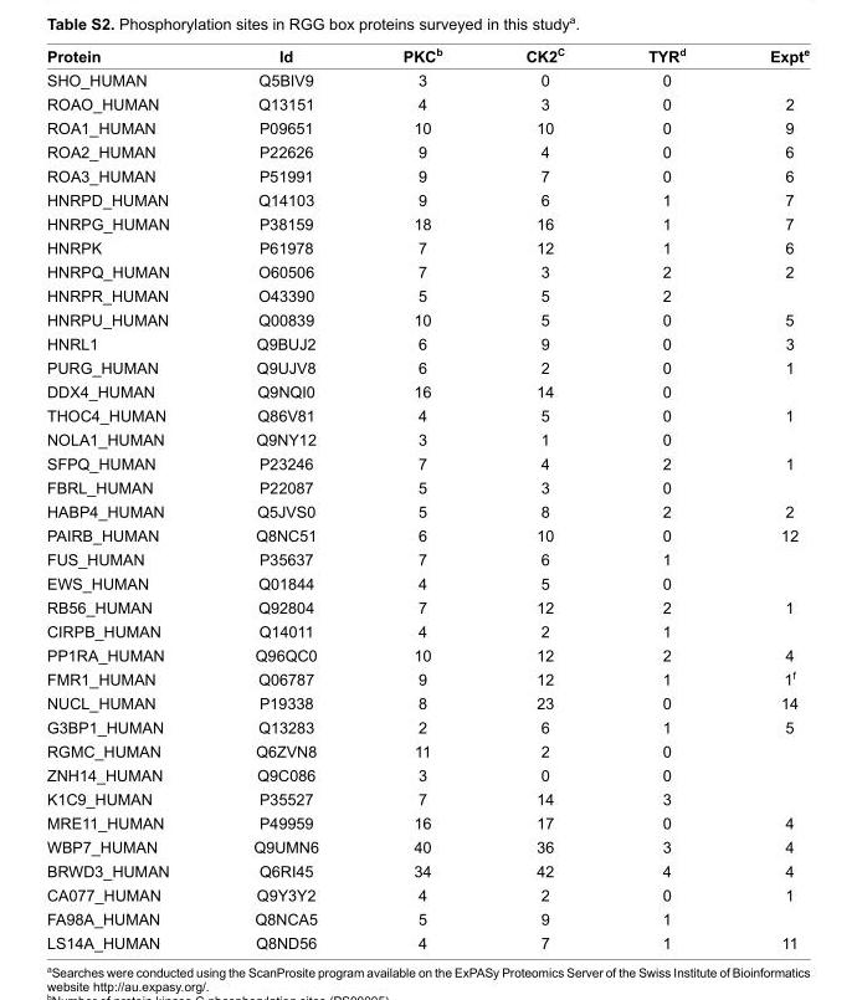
<table><thead><tr><td>Protein</td><td>Id</td><td>PKC<sup>b</sup></td><td>CK2<sup>C</sup></td><td>TYR<sup>d</sup></td><td>Expt<sup>e</sup></td></tr></thead><tbody><tr><td>SHO_HUMAN</td><td>Q5BIV9</td><td>3</td><td>0</td><td>0</td><td></td></tr><tr><td>ROAO_HUMAN</td><td>Q13151</td><td>4</td><td>3</td><td>0</td><td>2</td></tr><tr><td>ROA1_HUMAN</td><td>P09651</td><td>10</td><td>10</td><td>0</td><td>9</td></tr><tr><td>ROA2_HUMAN</td><td>P22626</td><td>9</td><td>4</td><td>0</td><td>6</td></tr><tr><td>ROA3_HUMAN</td><td>P51991</td><td>9</td><td>7</td><td>0</td><td>6</td></tr><tr><td>HNRPD_HUMAN</td><td>Q14103</td><td>9</td><td>6</td><td>1</td><td>7</td></tr><tr><td>HNRPG_HUMAN</td><td>P38159</td><td>18</td><td>16</td><td>1</td><td>7</td></tr><tr><td>HNRPK</td><td>P61978</td><td>7</td><td>12</td><td>1</td><td>6</td></tr><tr><td>HNRPQ_HUMAN</td><td>O60506</td><td>7</td><td>3</td><td>2</td><td>2</td></tr><tr><td>HNRPR_HUMAN</td><td>O43390</td><td>5</td><td>5</td><td>2</td><td></td></tr><tr><td>HNRPU_HUMAN</td><td>Q00839</td><td>10</td><td>5</td><td>0</td><td>5</td></tr><tr><td>HNRL1</td><td>Q9BUJ2</td><td>6</td><td>9</td><td>0</td><td>3</td></tr><tr><td>PURG_HUMAN</td><td>Q9UJV8</td><td>6</td><td>2</td><td>0</td><td>1</td></tr><tr><td>DDX4_HUMAN</td><td>Q9NQI0</td><td>16</td><td>14</td><td>0</td><td></td></tr><tr><td>THOC4_HUMAN</td><td>Q86V81</td><td>4</td><td>5</td><td>0</td><td>1</td></tr><tr><td>NOLA1_HUMAN</td><td>Q9NY12</td><td>3</td><td>1</td><td>0</td><td></td></tr><tr><td>SFPQ_HUMAN</td><td>P23246</td><td>7</td><td>4</td><td>2</td><td>1</td></tr><tr><td>FBRL_HUMAN</td><td>P22087</td><td>5</td><td>3</td><td>0</td><td></td></tr><tr><td>HABP4_HUMAN</td><td>Q5JVS0</td><td>5</td><td>8</td><td>2</td><td>2</td></tr><tr><td>PAIRB_HUMAN</td><td>Q8NC51</td><td>6</td><td>10</td><td>0</td><td>12</td></tr><tr><td>FUS_HUMAN</td><td>P35637</td><td>7</td><td>6</td><td>1</td><td></td></tr><tr><td>EWS_HUMAN</td><td>Q01844</td><td>4</td><td>5</td><td>0</td><td></td></tr><tr><td>RB56_HUMAN</td><td>Q92804</td><td>7</td><td>12</td><td>2</td><td>1</td></tr><tr><td>CIRPB_HUMAN</td><td>Q14011</td><td>4</td><td>2</td><td>1</td><td></td></tr><tr><td>PP1RA_HUMAN</td><td>Q96QC0</td><td>10</td><td>12</td><td>2</td><td>4</td></tr><tr><td>FMR1_HUMAN</td><td>Q06787</td><td>9</td><td>12</td><td>1</td><td>1<sup>f</sup></td></tr><tr><td>NUCL_HUMAN</td><td>P19338</td><td>8</td><td>23</td><td>0</td><td>14</td></tr><tr><td>G3BP1_HUMAN</td><td>Q13283</td><td>2</td><td>6</td><td>1</td><td>5</td></tr><tr><td>RGMC_HUMAN</td><td>Q6ZVN8</td><td>11</td><td>2</td><td>0</td><td></td></tr><tr><td>ZNH14_HUMAN</td><td>Q9C086</td><td>3</td><td>0</td><td>0</td><td></td></tr><tr><td>K1C9_HUMAN</td><td>P35527</td><td>7</td><td>14</td><td>3</td><td></td></tr><tr><td>MRE11_HUMAN</td><td>P49959</td><td>16</td><td>17</td><td>0</td><td>4</td></tr><tr><td>WBP7_HUMAN</td><td>Q9UMN6</td><td>40</td><td>36</td><td>3</td><td>4</td></tr><tr><td>BRWD3_HUMAN</td><td>Q6RI45</td><td>34</td><td>42</td><td>4</td><td>4</td></tr><tr><td>CA077_HUMAN</td><td>Q9Y3Y2</td><td>4</td><td>2</td><td>0</td><td>1</td></tr><tr><td>FA98A_HUMAN</td><td>Q8NCA5</td><td>5</td><td>9</td><td>1</td><td></td></tr><tr><td>LS14A_HUMAN</td><td>Q8ND56</td><td>4</td><td>7</td><td>1</td><td>11</td></tr></tbody></table>